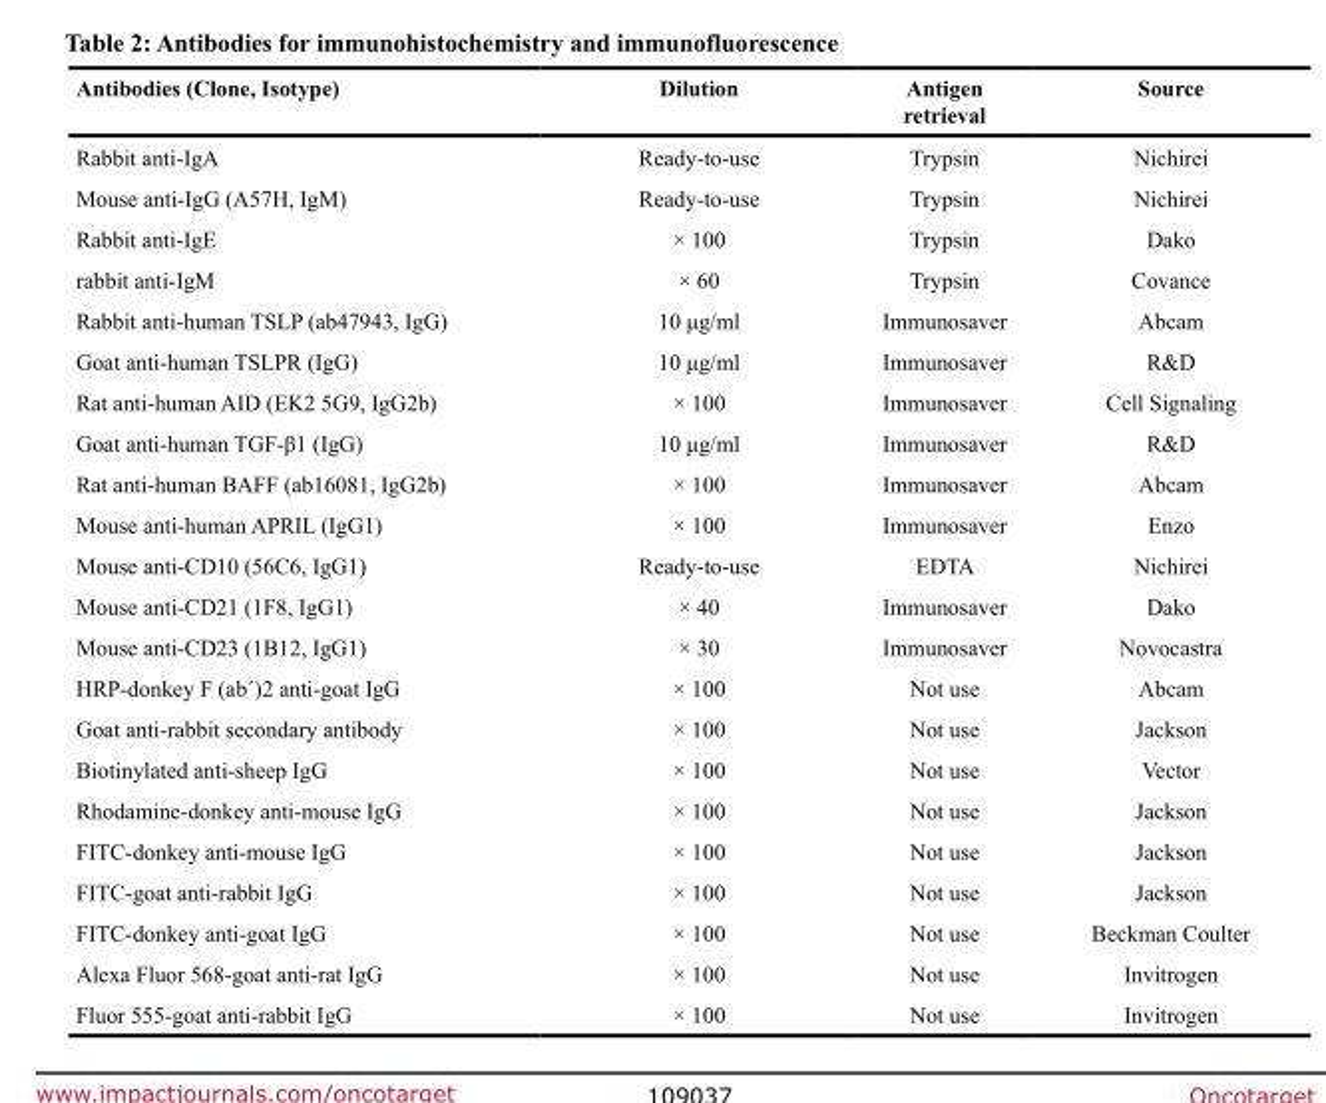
<table><thead><tr><td>Antibodies (Clone, Isotype)</td><td>Dilution</td><td>Antigen retrieval</td><td>Source</td></tr></thead><tbody><tr><td>Rabbit anti-IgA</td><td>Ready-to-use</td><td>Trypsin</td><td>Nichirei</td></tr><tr><td>Mouse anti-IgG (A57H, IgM)</td><td>Ready-to-use</td><td>Trypsin</td><td>Nichirei</td></tr><tr><td>Rabbit anti-IgE</td><td>× 100</td><td>Trypsin</td><td>Dako</td></tr><tr><td>rabbit anti-IgM</td><td>× 60</td><td>Trypsin</td><td>Covance</td></tr><tr><td>Rabbit anti-human TSLP (ab47943, IgG)</td><td>10 μg/ml</td><td>Immunosaver</td><td>Abcam</td></tr><tr><td>Goat anti-human TSLPR (IgG)</td><td>10 μg/ml</td><td>Immunosaver</td><td>R&amp;D</td></tr><tr><td>Rat anti-human AID (EK2 5G9, IgG2b)</td><td>× 100</td><td>Immunosaver</td><td>Cell Signaling</td></tr><tr><td>Goat anti-human TGF-β1 (IgG)</td><td>10 μg/ml</td><td>Immunosaver</td><td>R&amp;D</td></tr><tr><td>Rat anti-human BAFF (ab16081, IgG2b)</td><td>× 100</td><td>Immunosaver</td><td>Abcam</td></tr><tr><td>Mouse anti-human APRIL (IgG1)</td><td>× 100</td><td>Immunosaver</td><td>Enzo</td></tr><tr><td>Mouse anti-CD10 (56C6, IgG1)</td><td>Ready-to-use</td><td>EDTA</td><td>Nichirei</td></tr><tr><td>Mouse anti-CD21 (1F8, IgG1)</td><td>× 40</td><td>Immunosaver</td><td>Dako</td></tr><tr><td>Mouse anti-CD23 (1B12, IgG1)</td><td>× 30</td><td>Immunosaver</td><td>Novocastra</td></tr><tr><td>HRP-donkey F (ab´)2 anti-goat IgG</td><td>× 100</td><td>Not use</td><td>Abcam</td></tr><tr><td>Goat anti-rabbit secondary antibody</td><td>× 100</td><td>Not use</td><td>Jackson</td></tr><tr><td>Biotinylated anti-sheep IgG</td><td>× 100</td><td>Not use</td><td>Vector</td></tr><tr><td>Rhodamine-donkey anti-mouse IgG</td><td>× 100</td><td>Not use</td><td>Jackson</td></tr><tr><td>FITC-donkey anti-mouse IgG</td><td>× 100</td><td>Not use</td><td>Jackson</td></tr><tr><td>FITC-goat anti-rabbit IgG</td><td>× 100</td><td>Not use</td><td>Jackson</td></tr><tr><td>FITC-donkey anti-goat IgG</td><td>× 100</td><td>Not use</td><td>Beckman Coulter</td></tr><tr><td>Alexa Fluor 568-goat anti-rat IgG</td><td>× 100</td><td>Not use</td><td>Invitrogen</td></tr><tr><td>Fluor 555-goat anti-rabbit IgG</td><td>× 100</td><td>Not use</td><td>Invitrogen</td></tr></tbody></table>